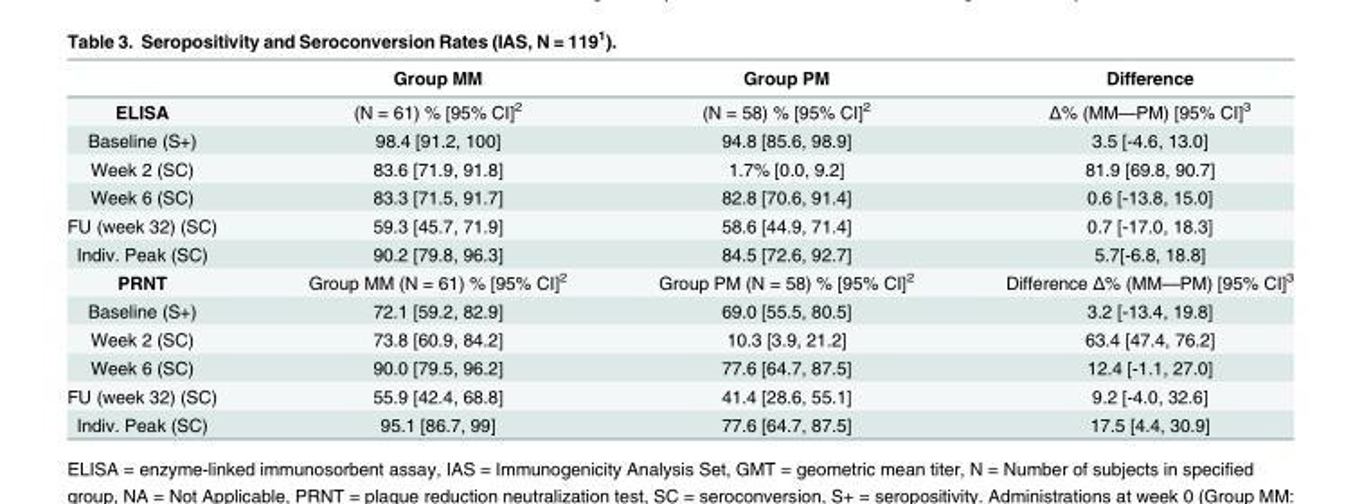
<table><thead><tr><td></td><td>Group MM</td><td>Group PM</td><td>Difference</td></tr></thead><tbody><tr><td>ELISA</td><td>(N = 61) % [95% CI]<sup>2</sup></td><td>(N = 58) % [95% CI]<sup>2</sup></td><td>Δ% (MM—PM) [95% CI]<sup>3</sup></td></tr><tr><td>Baseline (S+)</td><td>98.4 [91.2, 100]</td><td>94.8 [85.6, 98.9]</td><td>3.5 [-4.6, 13.0]</td></tr><tr><td>Week 2 (SC)</td><td>83.6 [71.9, 91.8]</td><td>1.7% [0.0, 9.2]</td><td>81.9 [69.8, 90.7]</td></tr><tr><td>Week 6 (SC)</td><td>83.3 [71.5, 91.7]</td><td>82.8 [70.6, 91.4]</td><td>0.6 [-13.8, 15.0]</td></tr><tr><td>FU (week 32) (SC)</td><td>59.3 [45.7, 71.9]</td><td>58.6 [44.9, 71.4]</td><td>0.7 [-17.0, 18.3]</td></tr><tr><td>Indiv. Peak (SC)</td><td>90.2 [79.8, 96.3]</td><td>84.5 [72.6, 92.7]</td><td>5.7[-6.8, 18.8]</td></tr><tr><td>PRNT</td><td>Group MM (N = 61) % [95% CI]<sup>2</sup></td><td>Group PM (N = 58) % [95% CI]<sup>2</sup></td><td>Difference Δ% (MM—PM) [95% CI]<sup>3</sup></td></tr><tr><td>Baseline (S+)</td><td>72.1 [59.2, 82.9]</td><td>69.0 [55.5, 80.5]</td><td>3.2 [-13.4, 19.8]</td></tr><tr><td>Week 2 (SC)</td><td>73.8 [60.9, 84.2]</td><td>10.3 [3.9, 21.2]</td><td>63.4 [47.4, 76.2]</td></tr><tr><td>Week 6 (SC)</td><td>90.0 [79.5, 96.2]</td><td>77.6 [64.7, 87.5]</td><td>12.4 [-1.1, 27.0]</td></tr><tr><td>FU (week 32) (SC)</td><td>55.9 [42.4, 68.8]</td><td>41.4 [28.6, 55.1]</td><td>9.2 [-4.0, 32.6]</td></tr><tr><td>Indiv. Peak (SC)</td><td>95.1 [86.7, 99]</td><td>77.6 [64.7, 87.5]</td><td>17.5 [4.4, 30.9]</td></tr></tbody></table>